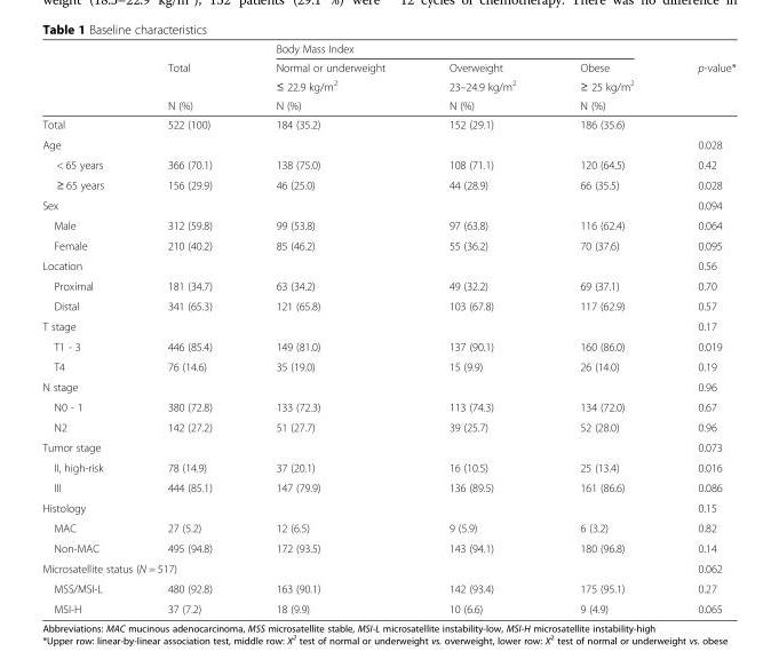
<table><thead><tr><td rowspan="4"></td><td rowspan="4">Total N (%)</td><td colspan="3">Body Mass Index</td><td rowspan="4">p-value*</td></tr><tr><td rowspan="3">Normal or underweight ≤ 22.9 kg/m<sup>2</sup> N (%)</td><td rowspan="3">Overweight 23–24.9 kg/m<sup>2</sup> N (%)</td><td rowspan="3">Obese ≥ 25 kg/m<sup>2</sup> N (%)</td></tr><tr></tr><tr></tr></thead><tbody><tr><td>Total</td><td>522 (100)</td><td>184 (35.2)</td><td>152 (29.1)</td><td>186 (35.6)</td><td></td></tr><tr><td>Age</td><td></td><td></td><td></td><td></td><td>0.028</td></tr><tr><td>&lt; 65 years</td><td>366 (70.1)</td><td>138 (75.0)</td><td>108 (71.1)</td><td>120 (64.5)</td><td>0.42</td></tr><tr><td>≥ 65 years</td><td>156 (29.9)</td><td>46 (25.0)</td><td>44 (28.9)</td><td>66 (35.5)</td><td>0.028</td></tr><tr><td>Sex</td><td></td><td></td><td></td><td></td><td>0.094</td></tr><tr><td>Male</td><td>312 (59.8)</td><td>99 (53.8)</td><td>97 (63.8)</td><td>116 (62.4)</td><td>0.064</td></tr><tr><td>Female</td><td>210 (40.2)</td><td>85 (46.2)</td><td>55 (36.2)</td><td>70 (37.6)</td><td>0.095</td></tr><tr><td>Location</td><td></td><td></td><td></td><td></td><td>0.56</td></tr><tr><td>Proximal</td><td>181 (34.7)</td><td>63 (34.2)</td><td>49 (32.2)</td><td>69 (37.1)</td><td>0.70</td></tr><tr><td>Distal</td><td>341 (65.3)</td><td>121 (65.8)</td><td>103 (67.8)</td><td>117 (62.9)</td><td>0.57</td></tr><tr><td>T stage</td><td></td><td></td><td></td><td></td><td>0.17</td></tr><tr><td>T1 - 3</td><td>446 (85.4)</td><td>149 (81.0)</td><td>137 (90.1)</td><td>160 (86.0)</td><td>0.019</td></tr><tr><td>T4</td><td>76 (14.6)</td><td>35 (19.0)</td><td>15 (9.9)</td><td>26 (14.0)</td><td>0.19</td></tr><tr><td>N stage</td><td></td><td></td><td></td><td></td><td>0.96</td></tr><tr><td>N0 - 1</td><td>380 (72.8)</td><td>133 (72.3)</td><td>113 (74.3)</td><td>134 (72.0)</td><td>0.67</td></tr><tr><td>N2</td><td>142 (27.2)</td><td>51 (27.7)</td><td>39 (25.7)</td><td>52 (28.0)</td><td>0.96</td></tr><tr><td colspan="2">Tumor stage</td><td></td><td></td><td></td><td>0.073</td></tr><tr><td>II, high-risk</td><td>78 (14.9)</td><td>37 (20.1)</td><td>16 (10.5)</td><td>25 (13.4)</td><td>0.016</td></tr><tr><td>III</td><td>444 (85.1)</td><td>147 (79.9)</td><td>136 (89.5)</td><td>161 (86.6)</td><td>0.086</td></tr><tr><td>Histology</td><td></td><td></td><td></td><td></td><td>0.15</td></tr><tr><td>MAC</td><td>27 (5.2)</td><td>12 (6.5)</td><td>9 (5.9)</td><td>6 (3.2)</td><td>0.82</td></tr><tr><td>Non-MAC</td><td>495 (94.8)</td><td>172 (93.5)</td><td>143 (94.1)</td><td>180 (96.8)</td><td>0.14</td></tr><tr><td colspan="5">Microsatellite status (N = 517)</td><td>0.062</td></tr><tr><td>MSS/MSI-L</td><td>480 (92.8)</td><td>163 (90.1)</td><td>142 (93.4)</td><td>175 (95.1)</td><td>0.27</td></tr><tr><td>MSI-H</td><td>37 (7.2)</td><td>18 (9.9)</td><td>10 (6.6)</td><td>9 (4.9)</td><td>0.065</td></tr></tbody></table>